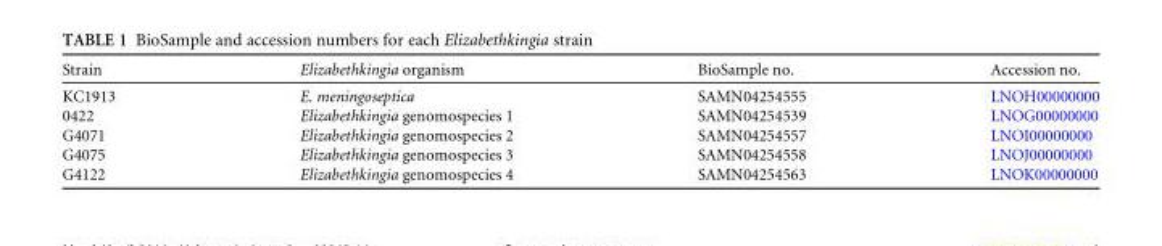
<table><thead><tr><td>Strain</td><td>Elizabethkingia organism</td><td>BioSample no.</td><td>Accession no.</td></tr></thead><tbody><tr><td>KC1913</td><td>E. meningoseptica</td><td>SAMN04254555</td><td>LNOH00000000</td></tr><tr><td>0422</td><td>Elizabethkingia genomospecies 1</td><td>SAMN04254539</td><td>LNOG00000000</td></tr><tr><td>G4071</td><td>Elizabethkingia genomospecies 2</td><td>SAMN04254557</td><td>LNOI00000000</td></tr><tr><td>G4075</td><td>Elizabethkingia genomospecies 3</td><td>SAMN04254558</td><td>LNOJ00000000</td></tr><tr><td>G4122</td><td>Elizabethkingia genomospecies 4</td><td>SAMN04254563</td><td>LNOK00000000</td></tr></tbody></table>